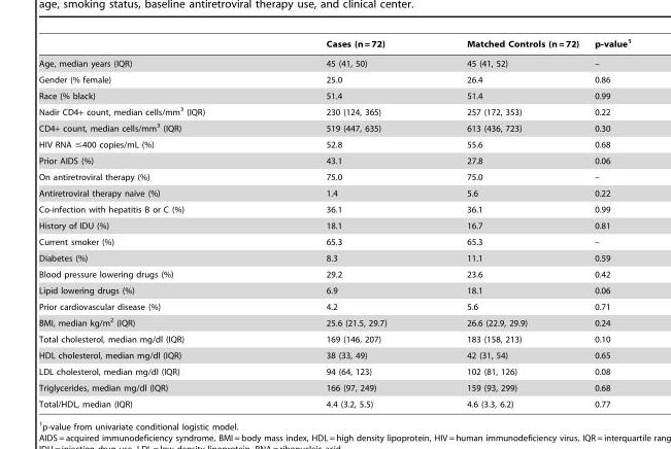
<table><thead><tr><td></td><td>Cases (n = 72)</td><td>Matched Controls (n = 72)</td><td>p-value<sup>1</sup></td></tr></thead><tbody><tr><td>Age, median years (IQR)</td><td>45 (41, 50)</td><td>45 (41, 52)</td><td>–</td></tr><tr><td>Gender (% female)</td><td>25.0</td><td>26.4</td><td>0.86</td></tr><tr><td>Race (% black)</td><td>51.4</td><td>51.4</td><td>0.99</td></tr><tr><td>Nadir CD4+ count, median cells/mm<sup>3</sup> (IQR)</td><td>230 (124, 365)</td><td>257 (172, 353)</td><td>0.22</td></tr><tr><td>CD4+ count, median cells/mm<sup>3</sup> (IQR)</td><td>519 (447, 635)</td><td>613 (436, 723)</td><td>0.30</td></tr><tr><td>HIV RNA ≤400 copies/mL (%)</td><td>52.8</td><td>55.6</td><td>0.68</td></tr><tr><td>Prior AIDS (%)</td><td>43.1</td><td>27.8</td><td>0.06</td></tr><tr><td>On antiretroviral therapy (%)</td><td>75.0</td><td>75.0</td><td>–</td></tr><tr><td>Antiretroviral therapy naive (%)</td><td>1.4</td><td>5.6</td><td>0.22</td></tr><tr><td>Co-infection with hepatitis B or C (%)</td><td>36.1</td><td>36.1</td><td>0.99</td></tr><tr><td>History of IDU (%)</td><td>18.1</td><td>16.7</td><td>0.81</td></tr><tr><td>Current smoker (%)</td><td>65.3</td><td>65.3</td><td>–</td></tr><tr><td>Diabetes (%)</td><td>8.3</td><td>11.1</td><td>0.59</td></tr><tr><td>Blood pressure lowering drugs (%)</td><td>29.2</td><td>23.6</td><td>0.42</td></tr><tr><td>Lipid lowering drugs (%)</td><td>6.9</td><td>18.1</td><td>0.06</td></tr><tr><td>Prior cardiovascular disease (%)</td><td>4.2</td><td>5.6</td><td>0.71</td></tr><tr><td>BMI, median kg/m<sup>2</sup> (IQR)</td><td>25.6 (21.5, 29.7)</td><td>26.6 (22.9, 29.9)</td><td>0.24</td></tr><tr><td>Total cholesterol, median mg/dl (IQR)</td><td>169 (146, 207)</td><td>183 (158, 213)</td><td>0.10</td></tr><tr><td>HDL cholesterol, median mg/dl (IQR)</td><td>38 (33, 49)</td><td>42 (31, 54)</td><td>0.65</td></tr><tr><td>LDL cholesterol, median mg/dl (IQR)</td><td>94 (64, 123)</td><td>102 (81, 126)</td><td>0.08</td></tr><tr><td>Triglycerides, median mg/dl (IQR)</td><td>166 (97, 249)</td><td>159 (93, 299)</td><td>0.68</td></tr><tr><td>Total/HDL, median (IQR)</td><td>4.4 (3.2, 5.5)</td><td>4.6 (3.3, 6.2)</td><td>0.77</td></tr></tbody></table>